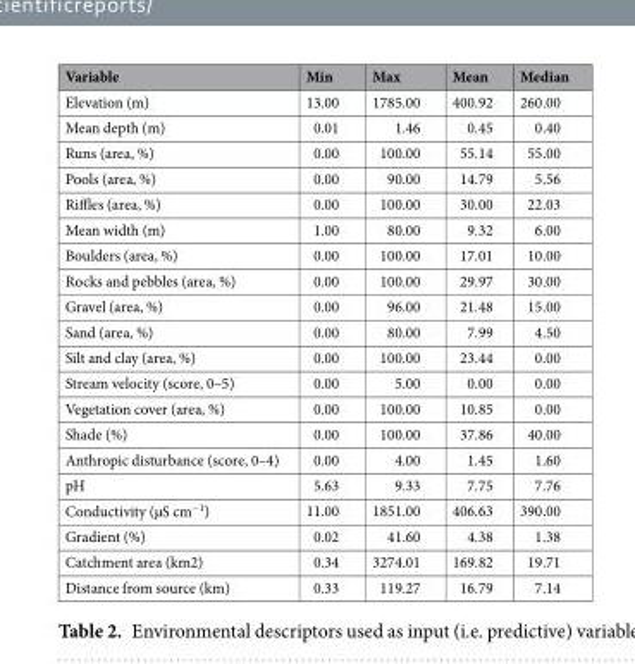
<table><thead><tr><td>Variable</td><td>Min</td><td>Max</td><td>Mean</td><td>Median</td></tr></thead><tbody><tr><td>Elevation (m)</td><td>13.00</td><td>1785.00</td><td>400.92</td><td>260.00</td></tr><tr><td>Mean depth (m)</td><td>0.01</td><td>1.46</td><td>0.45</td><td>0.40</td></tr><tr><td>Runs (area, %)</td><td>0.00</td><td>100.00</td><td>55.14</td><td>55.00</td></tr><tr><td>Pools (area, %)</td><td>0.00</td><td>90.00</td><td>14.79</td><td>5.56</td></tr><tr><td>Riffles (area, %)</td><td>0.00</td><td>100.00</td><td>30.00</td><td>22.03</td></tr><tr><td>Mean width (m)</td><td>1.00</td><td>80.00</td><td>9.32</td><td>6.00</td></tr><tr><td>Boulders (area, %)</td><td>0.00</td><td>100.00</td><td>17.01</td><td>10.00</td></tr><tr><td>Rocks and pebbles (area, %)</td><td>0.00</td><td>100.00</td><td>29.97</td><td>30.00</td></tr><tr><td>Gravel (area, %)</td><td>0.00</td><td>96.00</td><td>21.48</td><td>15.00</td></tr><tr><td>Sand (area, %)</td><td>0.00</td><td>80.00</td><td>7.99</td><td>4.50</td></tr><tr><td>Silt and clay (area, %)</td><td>0.00</td><td>100.00</td><td>23.44</td><td>0.00</td></tr><tr><td>Stream velocity (score, 0–5)</td><td>0.00</td><td>5.00</td><td>0.00</td><td>0.00</td></tr><tr><td>Vegetation cover (area, %)</td><td>0.00</td><td>100.00</td><td>10.85</td><td>0.00</td></tr><tr><td>Shade (%)</td><td>0.00</td><td>100.00</td><td>37.86</td><td>40.00</td></tr><tr><td>Anthropic disturbance (score, 0–4)</td><td>0.00</td><td>4.00</td><td>1.45</td><td>1.60</td></tr><tr><td>pH</td><td>5.63</td><td>9.33</td><td>7.75</td><td>7.76</td></tr><tr><td>Conductivity (µS cm<sup>−1</sup>)</td><td>11.00</td><td>1851.00</td><td>406.63</td><td>390.00</td></tr><tr><td>Gradient (%)</td><td>0.02</td><td>41.60</td><td>4.38</td><td>1.38</td></tr><tr><td>Catchment area (km2)</td><td>0.34</td><td>3274.01</td><td>169.82</td><td>19.71</td></tr><tr><td>Distance from source (km)</td><td>0.33</td><td>119.27</td><td>16.79</td><td>7.14</td></tr></tbody></table>